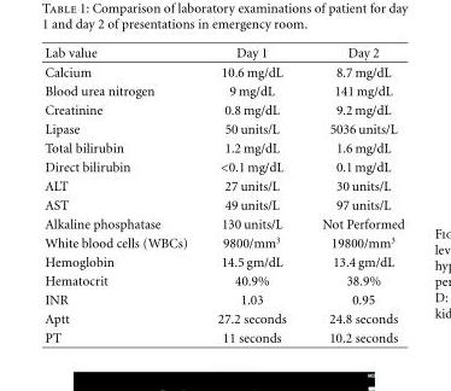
<table><thead><tr><td>Lab value</td><td>Day 1</td><td>Day 2</td></tr></thead><tbody><tr><td>Calcium</td><td>10.6 mg/dL</td><td>8.7 mg/dL</td></tr><tr><td>Blood urea nitrogen</td><td>9 mg/dL</td><td>141 mg/dL</td></tr><tr><td>Creatinine</td><td>0.8 mg/dL</td><td>9.2 mg/dL</td></tr><tr><td>Lipase</td><td>50 units/L</td><td>5036 units/L</td></tr><tr><td>Total bilirubin</td><td>1.2 mg/dL</td><td>1.6 mg/dL</td></tr><tr><td>Direct bilirubin</td><td>&lt;0.1 mg/dL</td><td>0.1 mg/dL</td></tr><tr><td>ALT</td><td>27 units/L</td><td>30 units/L</td></tr><tr><td>AST</td><td>49 units/L</td><td>97 units/L</td></tr><tr><td>Alkaline phosphatase</td><td>130 units/L</td><td>Not Performed</td></tr><tr><td>White blood cells (WBCs)</td><td>9800/mm<sup>3</sup></td><td>19800/mm<sup>3</sup></td></tr><tr><td>Hemoglobin</td><td>14.5 gm/dL</td><td>13.4 gm/dL</td></tr><tr><td>Hematocrit</td><td>40.9%</td><td>38.9%</td></tr><tr><td>INR</td><td>1.03</td><td>0.95</td></tr><tr><td>Aptt</td><td>27.2 seconds</td><td>24.8 seconds</td></tr><tr><td>PT</td><td>11 seconds</td><td>10.2 seconds</td></tr></tbody></table>